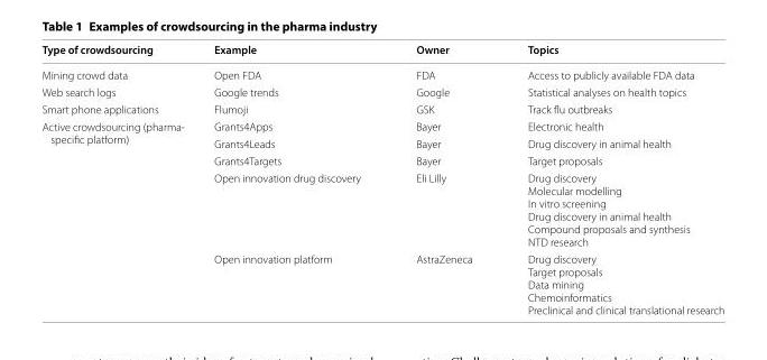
<table><thead><tr><td>Type of crowdsourcing</td><td>Example</td><td>Owner</td><td>Topics</td></tr></thead><tbody><tr><td>Mining crowd data</td><td>Open FDA</td><td>FDA</td><td>Access to publicly available FDA data</td></tr><tr><td>Web search logs</td><td>Google trends</td><td>Google</td><td>Statistical analyses on health topics</td></tr><tr><td>Smart phone applications</td><td>Flumoji</td><td>GSK</td><td>Track flu outbreaks</td></tr><tr><td rowspan="5">Active crowdsourcing (pharma- specific platform)</td><td>Grants4Apps</td><td>Bayer</td><td>Electronic health</td></tr><tr><td>Grants4Leads</td><td>Bayer</td><td>Drug discovery in animal health</td></tr><tr><td>Grants4Targets</td><td>Bayer</td><td>Target proposals</td></tr><tr><td>Open innovation drug discovery</td><td>Eli Lilly</td><td>Drug discovery Molecular modelling In vitro screening Drug discovery in animal health Compound proposals and synthesis NTD research</td></tr><tr><td>Open innovation platform</td><td>AstraZeneca</td><td>Drug discovery Target proposals Data mining Chemoinformatics Preclinical and clinical translational research</td></tr></tbody></table>